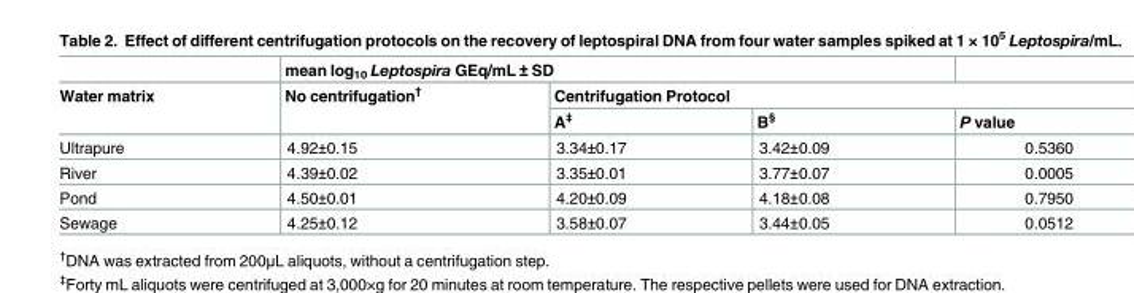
<table><thead><tr><td rowspan="3">Water matrix</td><td colspan="3">mean log<sub>10</sub> Leptospira GEq/mL ± SD</td><td></td></tr><tr><td rowspan="2">No centrifugation<sup>†</sup></td><td colspan="3">Centrifugation Protocol</td></tr><tr><td>A<sup>‡</sup></td><td>B<sup>§</sup></td><td>P value</td></tr></thead><tbody><tr><td>Ultrapure</td><td>4.92±0.15</td><td>3.34±0.17</td><td>3.42±0.09</td><td>0.5360</td></tr><tr><td>River</td><td>4.39±0.02</td><td>3.35±0.01</td><td>3.77±0.07</td><td>0.0005</td></tr><tr><td>Pond</td><td>4.50±0.01</td><td>4.20±0.09</td><td>4.18±0.08</td><td>0.7950</td></tr><tr><td>Sewage</td><td>4.25±0.12</td><td>3.58±0.07</td><td>3.44±0.05</td><td>0.0512</td></tr></tbody></table>